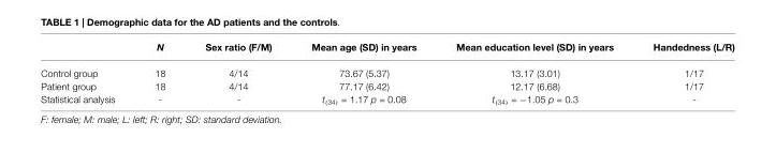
<table><thead><tr><td></td><td>N</td><td>Sex ratio (F/M)</td><td>Mean age (SD) in years</td><td>Mean education level (SD) in years</td><td>Handedness (L/R)</td></tr></thead><tbody><tr><td>Control group</td><td>18</td><td>4/14</td><td>73.67 (5.37)</td><td>13.17 (3.01)</td><td>1/17</td></tr><tr><td>Patient group</td><td>18</td><td>4/14</td><td>77.17 (6.42)</td><td>12.17 (6.68)</td><td>1/17</td></tr><tr><td>Statistical analysis</td><td>-</td><td>-</td><td>t<sub>(34)</sub> = 1.17 p = 0.08</td><td>t<sub>(34)</sub> = −1.05 p = 0.3</td><td>-</td></tr></tbody></table>